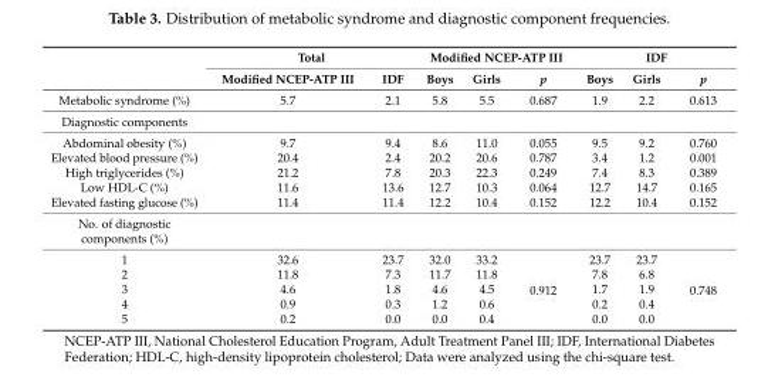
<table><thead><tr><td rowspan="2"></td><td colspan="2">Total</td><td colspan="3">Modified NCEP-ATP III</td><td colspan="3">IDF</td></tr><tr><td>Modified NCEP-ATP III</td><td>IDF</td><td>Boys</td><td>Girls</td><td>p</td><td>Boys</td><td>Girls</td><td>p</td></tr></thead><tbody><tr><td>Metabolic syndrome (%)</td><td>5.7</td><td>2.1</td><td>5.8</td><td>5.5</td><td>0.687</td><td>1.9</td><td>2.2</td><td>0.613</td></tr><tr><td colspan="9">Diagnostic components</td></tr><tr><td>Abdominal obesity (%)</td><td>9.7</td><td>9.4</td><td>8.6</td><td>11.0</td><td>0.055</td><td>9.5</td><td>9.2</td><td>0.760</td></tr><tr><td>Elevated blood pressure (%)</td><td>20.4</td><td>2.4</td><td>20.2</td><td>20.6</td><td>0.787</td><td>3.4</td><td>1.2</td><td>0.001</td></tr><tr><td>High triglycerides (%)</td><td>21.2</td><td>7.8</td><td>20.3</td><td>22.3</td><td>0.249</td><td>7.4</td><td>8.3</td><td>0.389</td></tr><tr><td>Low HDL-C (%)</td><td>11.6</td><td>13.6</td><td>12.7</td><td>10.3</td><td>0.064</td><td>12.7</td><td>14.7</td><td>0.165</td></tr><tr><td>Elevated fasting glucose (%)</td><td>11.4</td><td>11.4</td><td>12.2</td><td>10.4</td><td>0.152</td><td>12.2</td><td>10.4</td><td>0.152</td></tr><tr><td colspan="9">No. of diagnostic components (%)</td></tr><tr><td>1</td><td>32.6</td><td>23.7</td><td>32.0</td><td>33.2</td><td rowspan="5">0.912</td><td>23.7</td><td>23.7</td><td rowspan="5">0.748</td></tr><tr><td>2</td><td>11.8</td><td>7.3</td><td>11.7</td><td>11.8</td><td>7.8</td><td>6.8</td></tr><tr><td>3</td><td>4.6</td><td>1.8</td><td>4.6</td><td>4.5</td><td>1.7</td><td>1.9</td></tr><tr><td>4</td><td>0.9</td><td>0.3</td><td>1.2</td><td>0.6</td><td>0.2</td><td>0.4</td></tr><tr><td>5</td><td>0.2</td><td>0.0</td><td>0.0</td><td>0.4</td><td>0.0</td><td>0.0</td></tr></tbody></table>